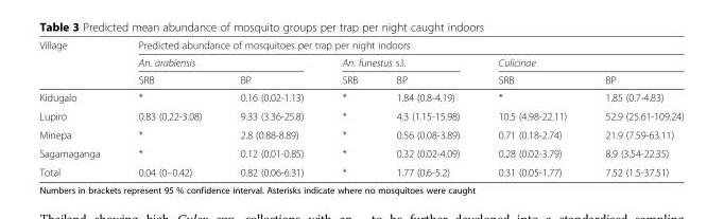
<table><thead><tr><td rowspan="3">Village</td><td colspan="6">Predicted abundance of mosquitoes per trap per night indoors</td></tr><tr><td colspan="2">An. arabiensis</td><td colspan="2">An. funestus s.l.</td><td colspan="2">Culicinae</td></tr><tr><td>SRB</td><td>BP</td><td>SRB</td><td>BP</td><td>SRB</td><td>BP</td></tr></thead><tbody><tr><td>Kidugalo</td><td>*</td><td>0.16 (0.02-1.13)</td><td>*</td><td>1.84 (0.8-4.19)</td><td>*</td><td>1.85 (0.7-4.83)</td></tr><tr><td>Lupiro</td><td>0.83 (0.22-3.08)</td><td>9.33 (3.36-25.8)</td><td>*</td><td>4.3 (1.15-15.98)</td><td>10.5 (4.98-22.11)</td><td>52.9 (25.61-109.24)</td></tr><tr><td>Minepa</td><td>*</td><td>2.8 (0.88-8.89)</td><td>*</td><td>0.56 (0.08-3.89)</td><td>0.71 (0.18-2.74)</td><td>21.9 (7.59-63.11)</td></tr><tr><td>Sagamaganga</td><td>*</td><td>0.12 (0.01-0.85)</td><td>*</td><td>0.32 (0.02-4.09)</td><td>0.28 (0.02-3.79)</td><td>8.9 (3.54-22.35)</td></tr><tr><td>Total</td><td>0.04 (0–0.42)</td><td>0.82 (0.06-6.31)</td><td>*</td><td>1.77 (0.6-5.2)</td><td>0.31 (0.05-1.77)</td><td>7.52 (1.5-37.51)</td></tr></tbody></table>